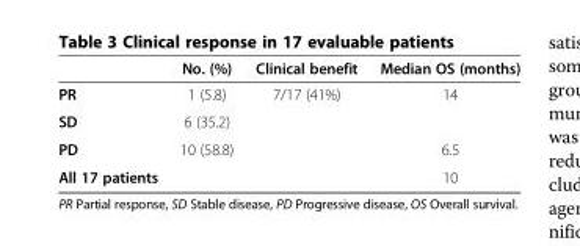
<table><thead><tr><td></td><td>No. (%)</td><td>Clinical benefit</td><td>Median OS (months)</td></tr></thead><tbody><tr><td>PR</td><td>1 (5.8)</td><td rowspan="2">7/17 (41%)</td><td rowspan="2">14</td></tr><tr><td>SD</td><td>6 (35.2)</td></tr><tr><td>PD</td><td>10 (58.8)</td><td></td><td>6.5</td></tr><tr><td>All 17 patients</td><td></td><td></td><td>10</td></tr></tbody></table>